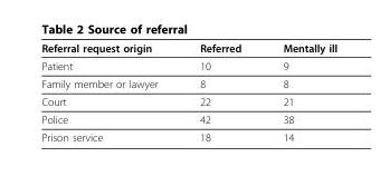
<table><thead><tr><td>Referral request origin</td><td>Referred</td><td>Mentally ill</td></tr></thead><tbody><tr><td>Patient</td><td>10</td><td>9</td></tr><tr><td>Family member or lawyer</td><td>8</td><td>8</td></tr><tr><td>Court</td><td>22</td><td>21</td></tr><tr><td>Police</td><td>42</td><td>38</td></tr><tr><td>Prison service</td><td>18</td><td>14</td></tr></tbody></table>